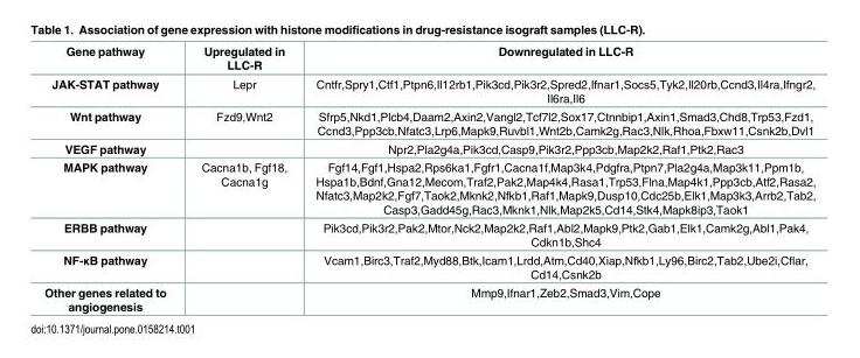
<table><thead><tr><td>Gene pathway</td><td>Upregulated in LLC-R</td><td>Downregulated in LLC-R</td></tr></thead><tbody><tr><td>JAK-STAT pathway</td><td>Lepr</td><td>Cntfr,Spry1,Ctf1,Ptpn6,Il12rb1,Pik3cd,Pik3r2,Spred2,Ifnar1,Socs5,Tyk2,Il20rb,Ccnd3,Il4ra,Ifngr2, Il6ra,Il6</td></tr><tr><td>Wnt pathway</td><td>Fzd9,Wnt2</td><td>Sfrp5,Nkd1,Plcb4,Daam2,Axin2,Vangl2,Tcf7l2,Sox17,Ctnnbip1,Axin1,Smad3,Chd8,Trp53,Fzd1, Ccnd3,Ppp3cb,Nfatc3,Lrp6,Mapk9,Ruvbl1,Wnt2b,Camk2g,Rac3,Nlk,Rhoa,Fbxw11,Csnk2b,Dvl1</td></tr><tr><td>VEGF pathway</td><td></td><td>Npr2,Pla2g4a,Pik3cd,Casp9,Pik3r2,Ppp3cb,Map2k2,Raf1,Ptk2,Rac3</td></tr><tr><td>MAPK pathway</td><td>Cacna1b, Fgf18, Cacna1g</td><td>Fgf14,Fgf1,Hspa2,Rps6ka1,Fgfr1,Cacna1f,Map3k4,Pdgfra,Ptpn7,Pla2g4a,Map3k11,Ppm1b, Hspa1b,Bdnf,Gna12,Mecom,Traf2,Pak2,Map4k4,Rasa1,Trp53,Flna,Map4k1,Ppp3cb,Atf2,Rasa2, Nfatc3,Map2k2,Fgf7,Taok2,Mknk2,Nfkb1,Raf1,Mapk9,Dusp10,Cdc25b,Elk1,Map3k3,Arrb2,Tab2, Casp3,Gadd45g,Rac3,Mknk1,Nlk,Map2k5,Cd14,Stk4,Mapk8ip3,Taok1</td></tr><tr><td>ERBB pathway</td><td></td><td>Pik3cd,Pik3r2,Pak2,Mtor,Nck2,Map2k2,Raf1,Abl2,Mapk9,Ptk2,Gab1,Elk1,Camk2g,Abl1,Pak4, Cdkn1b,Shc4</td></tr><tr><td>NF-κB pathway</td><td></td><td>Vcam1,Birc3,Traf2,Myd88,Btk,Icam1,Lrdd,Atm,Cd40,Xiap,Nfkb1,Ly96,Birc2,Tab2,Ube2i,Cflar, Cd14,Csnk2b</td></tr><tr><td>Other genes related to angiogenesis</td><td></td><td>Mmp9,Ifnar1,Zeb2,Smad3,Vim,Cope</td></tr></tbody></table>